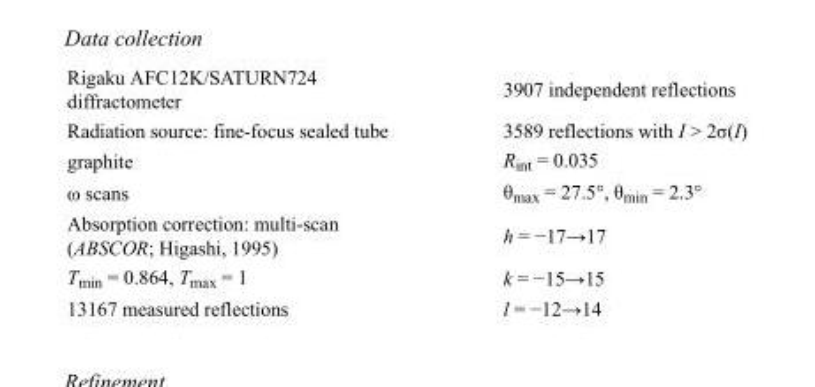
<table><tbody><tr><td>Rigaku AFC12K/SATURN724 diffractometer</td><td>3907 independent reflections</td></tr><tr><td>Radiation source: fine-focus sealed tube</td><td>3589 reflections with I &gt; 2σ(I)</td></tr><tr><td>graphite</td><td>R<sub>int</sub> = 0.035</td></tr><tr><td>ω scans</td><td>θ<sub>max</sub> = 27.5°, θ<sub>min</sub> = 2.3°</td></tr><tr><td>Absorption correction: multi-scan (ABSCOR; Higashi, 1995)</td><td>h = −17→17</td></tr><tr><td>T<sub>min</sub> = 0.864, T<sub>max</sub> = 1</td><td>k = −15→15</td></tr><tr><td>13167 measured reflections</td><td>l = −12→14</td></tr></tbody></table>